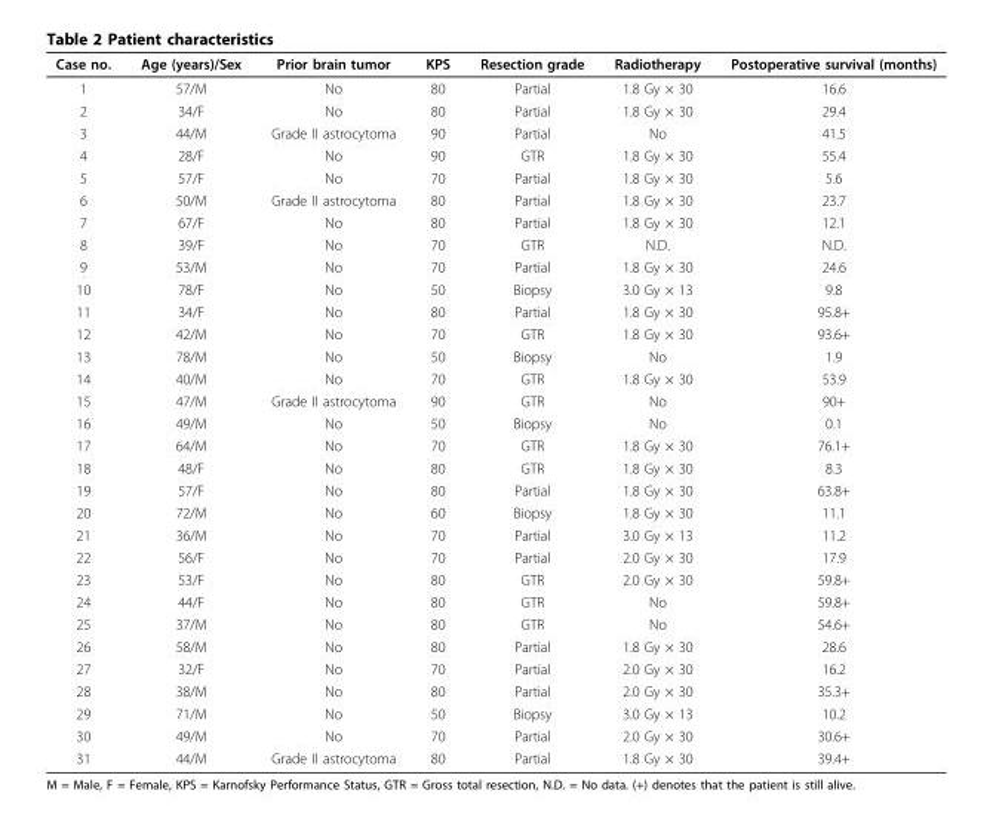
<table><thead><tr><td>Case no.</td><td>Age (years)/Sex</td><td>Prior brain tumor</td><td>KPS</td><td>Resection grade</td><td>Radiotherapy</td><td>Postoperative survival (months)</td></tr></thead><tbody><tr><td>1</td><td>57/M</td><td>No</td><td>80</td><td>Partial</td><td>1.8 Gy × 30</td><td>16.6</td></tr><tr><td>2</td><td>34/F</td><td>No</td><td>80</td><td>Partial</td><td>1.8 Gy × 30</td><td>29.4</td></tr><tr><td>3</td><td>44/M</td><td>Grade II astrocytoma</td><td>90</td><td>Partial</td><td>No</td><td>41.5</td></tr><tr><td>4</td><td>28/F</td><td>No</td><td>90</td><td>GTR</td><td>1.8 Gy × 30</td><td>55.4</td></tr><tr><td>5</td><td>57/F</td><td>No</td><td>70</td><td>Partial</td><td>1.8 Gy × 30</td><td>5.6</td></tr><tr><td>6</td><td>50/M</td><td>Grade II astrocytoma</td><td>80</td><td>Partial</td><td>1.8 Gy × 30</td><td>23.7</td></tr><tr><td>7</td><td>67/F</td><td>No</td><td>80</td><td>Partial</td><td>1.8 Gy × 30</td><td>12.1</td></tr><tr><td>8</td><td>39/F</td><td>No</td><td>70</td><td>GTR</td><td>N.D.</td><td>N.D.</td></tr><tr><td>9</td><td>53/M</td><td>No</td><td>70</td><td>Partial</td><td>1.8 Gy × 30</td><td>24.6</td></tr><tr><td>10</td><td>78/F</td><td>No</td><td>50</td><td>Biopsy</td><td>3.0 Gy × 13</td><td>9.8</td></tr><tr><td>11</td><td>34/F</td><td>No</td><td>80</td><td>Partial</td><td>1.8 Gy × 30</td><td>95.8+</td></tr><tr><td>12</td><td>42/M</td><td>No</td><td>70</td><td>GTR</td><td>1.8 Gy × 30</td><td>93.6+</td></tr><tr><td>13</td><td>78/M</td><td>No</td><td>50</td><td>Biopsy</td><td>No</td><td>1.9</td></tr><tr><td>14</td><td>40/M</td><td>No</td><td>70</td><td>GTR</td><td>1.8 Gy × 30</td><td>53.9</td></tr><tr><td>15</td><td>47/M</td><td>Grade II astrocytoma</td><td>90</td><td>GTR</td><td>No</td><td>90+</td></tr><tr><td>16</td><td>49/M</td><td>No</td><td>50</td><td>Biopsy</td><td>No</td><td>0.1</td></tr><tr><td>17</td><td>64/M</td><td>No</td><td>70</td><td>GTR</td><td>1.8 Gy × 30</td><td>76.1+</td></tr><tr><td>18</td><td>48/F</td><td>No</td><td>80</td><td>GTR</td><td>1.8 Gy × 30</td><td>8.3</td></tr><tr><td>19</td><td>57/F</td><td>No</td><td>80</td><td>Partial</td><td>1.8 Gy × 30</td><td>63.8+</td></tr><tr><td>20</td><td>72/M</td><td>No</td><td>60</td><td>Biopsy</td><td>1.8 Gy × 30</td><td>11.1</td></tr><tr><td>21</td><td>36/M</td><td>No</td><td>70</td><td>Partial</td><td>3.0 Gy × 13</td><td>11.2</td></tr><tr><td>22</td><td>56/F</td><td>No</td><td>70</td><td>Partial</td><td>2.0 Gy × 30</td><td>17.9</td></tr><tr><td>23</td><td>53/F</td><td>No</td><td>80</td><td>GTR</td><td>2.0 Gy × 30</td><td>59.8+</td></tr><tr><td>24</td><td>44/F</td><td>No</td><td>80</td><td>GTR</td><td>No</td><td>59.8+</td></tr><tr><td>25</td><td>37/M</td><td>No</td><td>80</td><td>GTR</td><td>No</td><td>54.6+</td></tr><tr><td>26</td><td>58/M</td><td>No</td><td>80</td><td>Partial</td><td>1.8 Gy × 30</td><td>28.6</td></tr><tr><td>27</td><td>32/F</td><td>No</td><td>70</td><td>Partial</td><td>2.0 Gy × 30</td><td>16.2</td></tr><tr><td>28</td><td>38/M</td><td>No</td><td>80</td><td>Partial</td><td>2.0 Gy × 30</td><td>35.3+</td></tr><tr><td>29</td><td>71/M</td><td>No</td><td>50</td><td>Biopsy</td><td>3.0 Gy × 13</td><td>10.2</td></tr><tr><td>30</td><td>49/M</td><td>No</td><td>70</td><td>Partial</td><td>2.0 Gy × 30</td><td>30.6+</td></tr><tr><td>31</td><td>44/M</td><td>Grade II astrocytoma</td><td>80</td><td>Partial</td><td>1.8 Gy × 30</td><td>39.4+</td></tr></tbody></table>